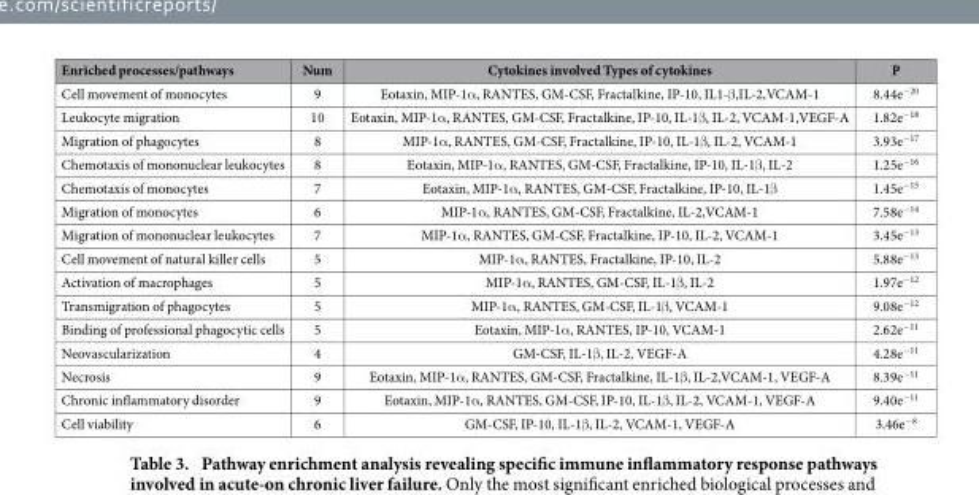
<table><thead><tr><td>Enriched processes/pathways</td><td>Num</td><td>Cytokines involved Types of cytokines</td><td>P</td></tr></thead><tbody><tr><td>Cell movement of monocytes</td><td>9</td><td>Eotaxin, MIP-1α , RANTES, GM-CSF, Fractalkine, IP-10, IL1-β ,IL-2,VCAM-1</td><td>8.44e<sup>−20</sup></td></tr><tr><td>Leukocyte migration</td><td>10</td><td>Eotaxin, MIP-1α , RANTES, GM-CSF, Fractalkine, IP-10, IL-1β , IL-2, VCAM-1,VEGF-A</td><td>1.82e<sup>−18</sup></td></tr><tr><td>Migration of phagocytes</td><td>8</td><td>MIP-1α , RANTES, GM-CSF, Fractalkine, IP-10, IL-1β , IL-2, VCAM-1</td><td>3.93e<sup>−17</sup></td></tr><tr><td>Chemotaxis of mononuclear leukocytes</td><td>8</td><td>Eotaxin, MIP-1α , RANTES, GM-CSF, Fractalkine, IP-10, IL-1β , IL-2</td><td>1.25e<sup>−16</sup></td></tr><tr><td>Chemotaxis of monocytes</td><td>7</td><td>Eotaxin, MIP-1α , RANTES, GM-CSF, Fractalkine, IP-10, IL-1β</td><td>1.45e<sup>−15</sup></td></tr><tr><td>Migration of monocytes</td><td>6</td><td>MIP-1α , RANTES, GM-CSF, Fractalkine, IL-2,VCAM-1</td><td>7.58e<sup>−14</sup></td></tr><tr><td>Migration of mononuclear leukocytes</td><td>7</td><td>MIP-1α , RANTES, GM-CSF, Fractalkine, IP-10, IL-2, VCAM-1</td><td>3.45e<sup>−13</sup></td></tr><tr><td>Cell movement of natural killer cells</td><td>5</td><td>MIP-1α , RANTES, Fractalkine, IP-10, IL-2</td><td>5.88e<sup>−13</sup></td></tr><tr><td>Activation of macrophages</td><td>5</td><td>MIP-1α , RANTES, GM-CSF, IL-1β , IL-2</td><td>1.97e<sup>−12</sup></td></tr><tr><td>Transmigration of phagocytes</td><td>5</td><td>MIP-1α , RANTES, GM-CSF, IL-1β , VCAM-1</td><td>9.08e<sup>−12</sup></td></tr><tr><td>Binding of professional phagocytic cells</td><td>5</td><td>Eotaxin, MIP-1α , RANTES, IP-10, VCAM-1</td><td>2.62e<sup>−11</sup></td></tr><tr><td>Neovascularization</td><td>4</td><td>GM-CSF, IL-1β , IL-2, VEGF-A</td><td>4.28e<sup>−11</sup></td></tr><tr><td>Necrosis</td><td>9</td><td>Eotaxin, MIP-1α , RANTES, GM-CSF, Fractalkine, IL-1β , IL-2,VCAM-1, VEGF-A</td><td>8.39e<sup>−11</sup></td></tr><tr><td>Chronic inflammatory disorder</td><td>9</td><td>Eotaxin, MIP-1α , RANTES, GM-CSF, IP-10, IL-1β , IL-2, VCAM-1, VEGF-A</td><td>9.40e<sup>−11</sup></td></tr><tr><td>Cell viability</td><td>6</td><td>GM-CSF, IP-10, IL-1β , IL-2, VCAM-1, VEGF-A</td><td>3.46e<sup>−8</sup></td></tr></tbody></table>